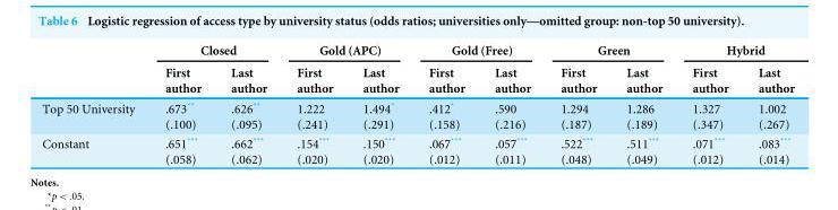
<table><thead><tr><td rowspan="2"></td><td colspan="2">Closed</td><td colspan="2">Gold (APC)</td><td colspan="2">Gold (Free)</td><td colspan="2">Green</td><td colspan="2">Hybrid</td></tr><tr><td>First author</td><td>Last author</td><td>First author</td><td>Last author</td><td>First author</td><td>Last author</td><td>First author</td><td>Last author</td><td>First author</td><td>Last author</td></tr></thead><tbody><tr><td>Top 50 University</td><td>.673** (.100)</td><td>.626** (.095)</td><td>1.222 (.241)</td><td>1.494* (.291)</td><td>.412* (.158)</td><td>.590 (.216)</td><td>1.294 (.187)</td><td>1.286 (.189)</td><td>1.327 (.347)</td><td>1.002 (.267)</td></tr><tr><td>Constant</td><td>.651*** (.058)</td><td>.662*** (.062)</td><td>.154*** (.020)</td><td>.150*** (.020)</td><td>.067*** (.012)</td><td>.057*** (.011)</td><td>.522*** (.048)</td><td>.511*** (.049)</td><td>.071*** (.012)</td><td>.083*** (.014)</td></tr></tbody></table>